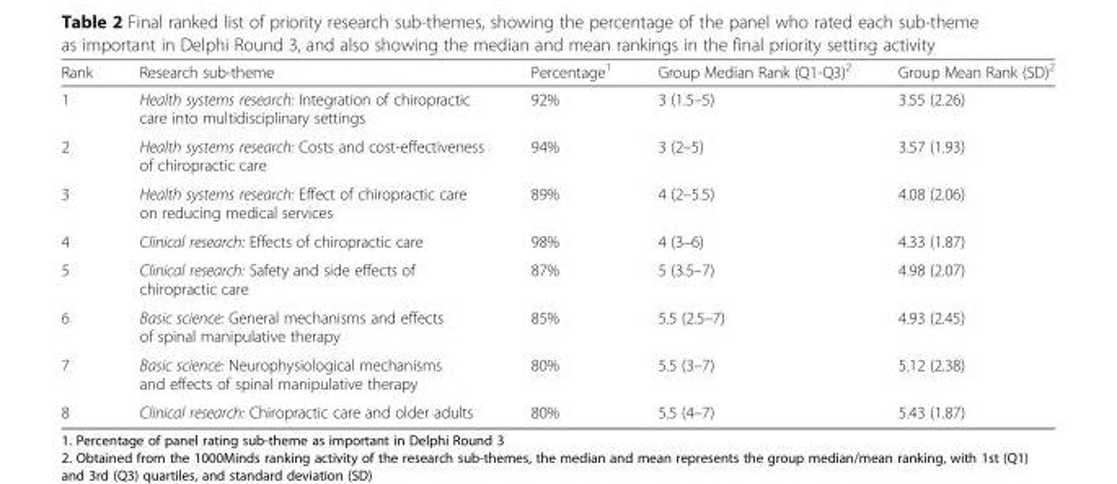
<table><thead><tr><td>Rank</td><td>Research sub-theme</td><td>Percentage<sup>1</sup></td><td>Group Median Rank (Q1-Q3)<sup>2</sup></td><td>Group Mean Rank (SD)<sup>2</sup></td></tr></thead><tbody><tr><td>1</td><td>Health systems research: Integration of chiropractic care into multidisciplinary settings</td><td>92%</td><td>3 (1.5–5)</td><td>3.55 (2.26)</td></tr><tr><td>2</td><td>Health systems research: Costs and cost-effectiveness of chiropractic care</td><td>94%</td><td>3 (2–5)</td><td>3.57 (1.93)</td></tr><tr><td>3</td><td>Health systems research: Effect of chiropractic care on reducing medical services</td><td>89%</td><td>4 (2–5.5)</td><td>4.08 (2.06)</td></tr><tr><td>4</td><td>Clinical research: Effects of chiropractic care</td><td>98%</td><td>4 (3–6)</td><td>4.33 (1.87)</td></tr><tr><td>5</td><td>Clinical research: Safety and side effects of chiropractic care</td><td>87%</td><td>5 (3.5–7)</td><td>4.98 (2.07)</td></tr><tr><td>6</td><td>Basic science: General mechanisms and effects of spinal manipulative therapy</td><td>85%</td><td>5.5 (2.5–7)</td><td>4.93 (2.45)</td></tr><tr><td>7</td><td>Basic science: Neurophysiological mechanisms and effects of spinal manipulative therapy</td><td>80%</td><td>5.5 (3–7)</td><td>5.12 (2.38)</td></tr><tr><td>8</td><td>Clinical research: Chiropractic care and older adults</td><td>80%</td><td>5.5 (4–7)</td><td>5.43 (1.87)</td></tr></tbody></table>